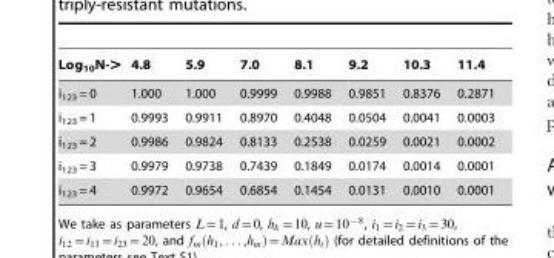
<table><thead><tr><td>Log<sub>10</sub>N-&gt;</td><td>4.8</td><td>5.9</td><td>7.0</td><td>8.1</td><td>9.2</td><td>10.3</td><td>11.4</td></tr></thead><tbody><tr><td>i<sub>123</sub> = 0</td><td>1.000</td><td>1.000</td><td>0.9999</td><td>0.9988</td><td>0.9851</td><td>0.8376</td><td>0.2871</td></tr><tr><td>i<sub>123</sub> = 1</td><td>0.9993</td><td>0.9911</td><td>0.8970</td><td>0.4048</td><td>0.0504</td><td>0.0041</td><td>0.0003</td></tr><tr><td>i<sub>123</sub> = 2</td><td>0.9986</td><td>0.9824</td><td>0.8133</td><td>0.2538</td><td>0.0259</td><td>0.0021</td><td>0.0002</td></tr><tr><td>i<sub>123</sub> = 3</td><td>0.9979</td><td>0.9738</td><td>0.7439</td><td>0.1849</td><td>0.0174</td><td>0.0014</td><td>0.0001</td></tr><tr><td>i<sub>123</sub> = 4</td><td>0.9972</td><td>0.9654</td><td>0.6854</td><td>0.1454</td><td>0.0131</td><td>0.0010</td><td>0.0001</td></tr></tbody></table>